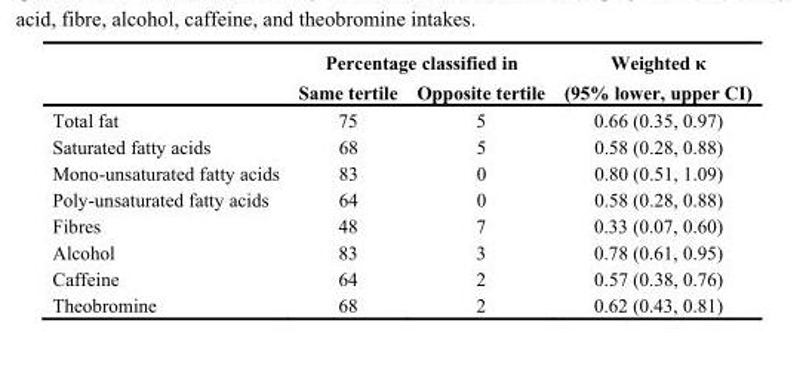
<table><thead><tr><td rowspan="2"></td><td colspan="2">Percentage classified in</td><td rowspan="2">Weighted κ (95% lower, upper CI)</td></tr><tr><td>Same tertile</td><td>Opposite tertile</td></tr></thead><tbody><tr><td>Total fat</td><td>75</td><td>5</td><td>0.66 (0.35, 0.97)</td></tr><tr><td>Saturated fatty acids</td><td>68</td><td>5</td><td>0.58 (0.28, 0.88)</td></tr><tr><td>Mono-unsaturated fatty acids</td><td>83</td><td>0</td><td>0.80 (0.51, 1.09)</td></tr><tr><td>Poly-unsaturated fatty acids</td><td>64</td><td>0</td><td>0.58 (0.28, 0.88)</td></tr><tr><td>Fibres</td><td>48</td><td>7</td><td>0.33 (0.07, 0.60)</td></tr><tr><td>Alcohol</td><td>83</td><td>3</td><td>0.78 (0.61, 0.95)</td></tr><tr><td>Caffeine</td><td>64</td><td>2</td><td>0.57 (0.38, 0.76)</td></tr><tr><td>Theobromine</td><td>68</td><td>2</td><td>0.62 (0.43, 0.81)</td></tr></tbody></table>